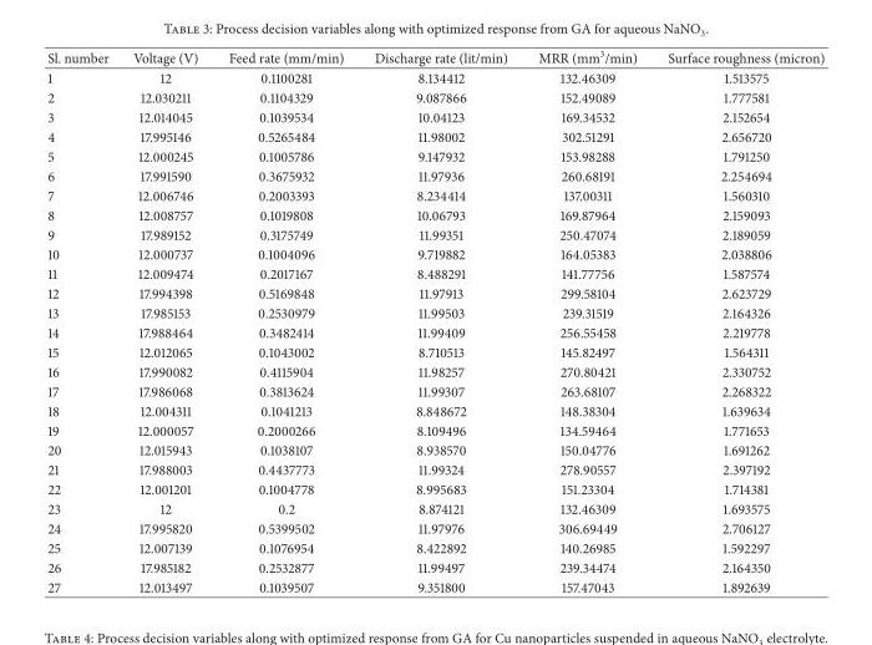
<table><thead><tr><td>Sl. number</td><td>Voltage (V)</td><td>Feed rate (mm/min)</td><td>Discharge rate (lit/min)</td><td>MRR (mm<sup>3</sup>/min)</td><td>Surface roughness (micron)</td></tr></thead><tbody><tr><td>1</td><td>12</td><td>0.1100281</td><td>8.134412</td><td>132.46309</td><td>1.513575</td></tr><tr><td>2</td><td>12.030211</td><td>0.1104329</td><td>9.087866</td><td>152.49089</td><td>1.777581</td></tr><tr><td>3</td><td>12.014045</td><td>0.1039534</td><td>10.04123</td><td>169.34532</td><td>2.152654</td></tr><tr><td>4</td><td>17.995146</td><td>0.5265484</td><td>11.98002</td><td>302.51291</td><td>2.656720</td></tr><tr><td>5</td><td>12.000245</td><td>0.1005786</td><td>9.147932</td><td>153.98288</td><td>1.791250</td></tr><tr><td>6</td><td>17.991590</td><td>0.3675932</td><td>11.97936</td><td>260.68191</td><td>2.254694</td></tr><tr><td>7</td><td>12.006746</td><td>0.2003393</td><td>8.234414</td><td>137.00311</td><td>1.560310</td></tr><tr><td>8</td><td>12.008757</td><td>0.1019808</td><td>10.06793</td><td>169.87964</td><td>2.159093</td></tr><tr><td>9</td><td>17.989152</td><td>0.3175749</td><td>11.99351</td><td>250.47074</td><td>2.189059</td></tr><tr><td>10</td><td>12.000737</td><td>0.1004096</td><td>9.719882</td><td>164.05383</td><td>2.038806</td></tr><tr><td>11</td><td>12.009474</td><td>0.2017167</td><td>8.488291</td><td>141.77756</td><td>1.587574</td></tr><tr><td>12</td><td>17.994398</td><td>0.5169848</td><td>11.97913</td><td>299.58104</td><td>2.623729</td></tr><tr><td>13</td><td>17.985153</td><td>0.2530979</td><td>11.99503</td><td>239.31519</td><td>2.164326</td></tr><tr><td>14</td><td>17.988464</td><td>0.3482414</td><td>11.99409</td><td>256.55458</td><td>2.219778</td></tr><tr><td>15</td><td>12.012065</td><td>0.1043002</td><td>8.710513</td><td>145.82497</td><td>1.564311</td></tr><tr><td>16</td><td>17.990082</td><td>0.4115904</td><td>11.98257</td><td>270.80421</td><td>2.330752</td></tr><tr><td>17</td><td>17.986068</td><td>0.3813624</td><td>11.99307</td><td>263.68107</td><td>2.268322</td></tr><tr><td>18</td><td>12.004311</td><td>0.1041213</td><td>8.848672</td><td>148.38304</td><td>1.639634</td></tr><tr><td>19</td><td>12.000057</td><td>0.2000266</td><td>8.109496</td><td>134.59464</td><td>1.771653</td></tr><tr><td>20</td><td>12.015943</td><td>0.1038107</td><td>8.938570</td><td>150.04776</td><td>1.691262</td></tr><tr><td>21</td><td>17.988003</td><td>0.4437773</td><td>11.99324</td><td>278.90557</td><td>2.397192</td></tr><tr><td>22</td><td>12.001201</td><td>0.1004778</td><td>8.995683</td><td>151.23304</td><td>1.714381</td></tr><tr><td>23</td><td>12</td><td>0.2</td><td>8.874121</td><td>132.46309</td><td>1.693575</td></tr><tr><td>24</td><td>17.995820</td><td>0.5399502</td><td>11.97976</td><td>306.69449</td><td>2.706127</td></tr><tr><td>25</td><td>12.007139</td><td>0.1076954</td><td>8.422892</td><td>140.26985</td><td>1.592297</td></tr><tr><td>26</td><td>17.985182</td><td>0.2532877</td><td>11.99497</td><td>239.34474</td><td>2.164350</td></tr><tr><td>27</td><td>12.013497</td><td>0.1039507</td><td>9.351800</td><td>157.47043</td><td>1.892639</td></tr></tbody></table>